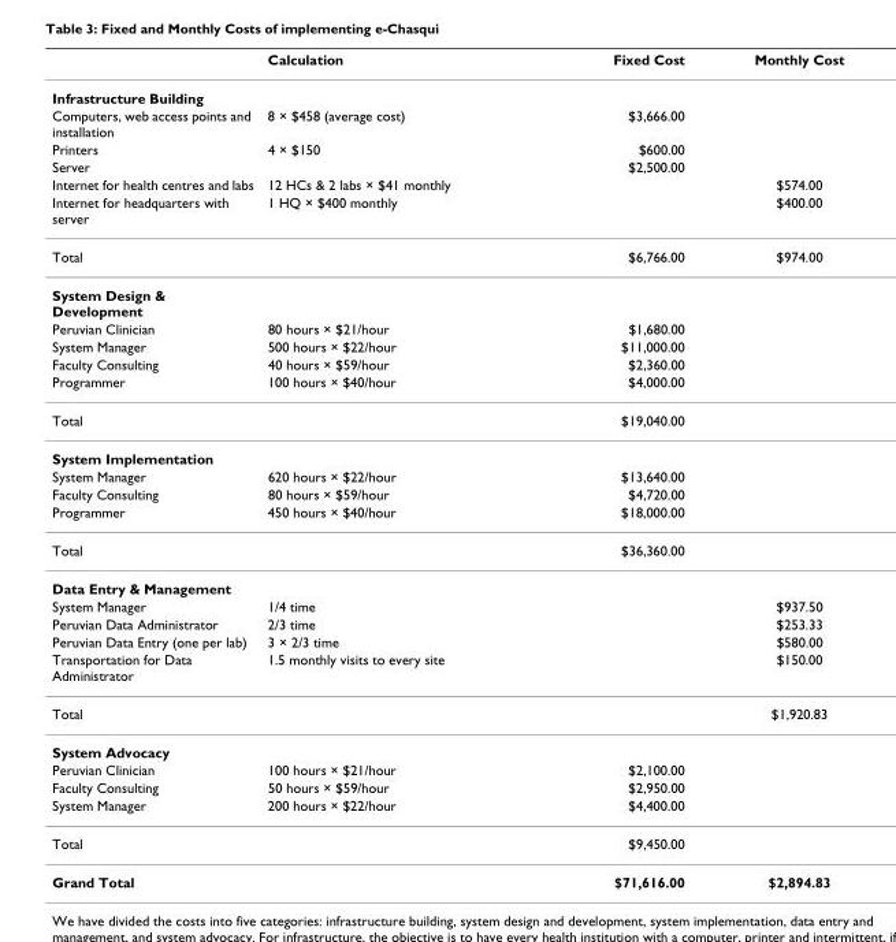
<table><thead><tr><td></td><td>Calculation</td><td>Fixed Cost</td><td>Monthly Cost</td></tr></thead><tbody><tr><td colspan="4">Infrastructure Building</td></tr><tr><td>Computers, web access points and installation</td><td>8 × $458 (average cost)</td><td>$3,666.00</td><td></td></tr><tr><td>Printers</td><td>4 × $150</td><td>$600.00</td><td></td></tr><tr><td>Server</td><td></td><td>$2,500.00</td><td></td></tr><tr><td>Internet for health centres and labs</td><td>12 HCs &amp; 2 labs × $41 monthly</td><td></td><td>$574.00</td></tr><tr><td>Internet for headquarters with server</td><td>1 HQ × $400 monthly</td><td></td><td>$400.00</td></tr><tr><td>Total</td><td></td><td>$6,766.00</td><td>$974.00</td></tr><tr><td colspan="4">System Design &amp; Development</td></tr><tr><td>Peruvian Clinician</td><td>80 hours × $21/hour</td><td>$1,680.00</td><td></td></tr><tr><td>System Manager</td><td>500 hours × $22/hour</td><td>$11,000.00</td><td></td></tr><tr><td>Faculty Consulting</td><td>40 hours × $59/hour</td><td>$2,360.00</td><td></td></tr><tr><td>Programmer</td><td>100 hours × $40/hour</td><td>$4,000.00</td><td></td></tr><tr><td>Total</td><td></td><td>$19,040.00</td><td></td></tr><tr><td colspan="4">System Implementation</td></tr><tr><td>System Manager</td><td>620 hours × $22/hour</td><td>$13,640.00</td><td></td></tr><tr><td>Faculty Consulting</td><td>80 hours × $59/hour</td><td>$4,720.00</td><td></td></tr><tr><td>Programmer</td><td>450 hours × $40/hour</td><td>$18,000.00</td><td></td></tr><tr><td>Total</td><td></td><td>$36,360.00</td><td></td></tr><tr><td colspan="4">Data Entry &amp; Management</td></tr><tr><td>System Manager</td><td>1/4 time</td><td></td><td>$937.50</td></tr><tr><td>Peruvian Data Administrator</td><td>2/3 time</td><td></td><td>$253.33</td></tr><tr><td>Peruvian Data Entry (one per lab)</td><td>3 × 2/3 time</td><td></td><td>$580.00</td></tr><tr><td>Transportation for Data Administrator</td><td>1.5 monthly visits to every site</td><td></td><td>$150.00</td></tr><tr><td>Total</td><td></td><td></td><td>$1,920.83</td></tr><tr><td colspan="4">System Advocacy</td></tr><tr><td>Peruvian Clinician</td><td>100 hours × $21/hour</td><td>$2,100.00</td><td></td></tr><tr><td>Faculty Consulting</td><td>50 hours × $59/hour</td><td>$2,950.00</td><td></td></tr><tr><td>System Manager</td><td>200 hours × $22/hour</td><td>$4,400.00</td><td></td></tr><tr><td>Total</td><td></td><td>$9,450.00</td><td></td></tr><tr><td>Grand Total</td><td></td><td>$71,616.00</td><td>$2,894.83</td></tr></tbody></table>